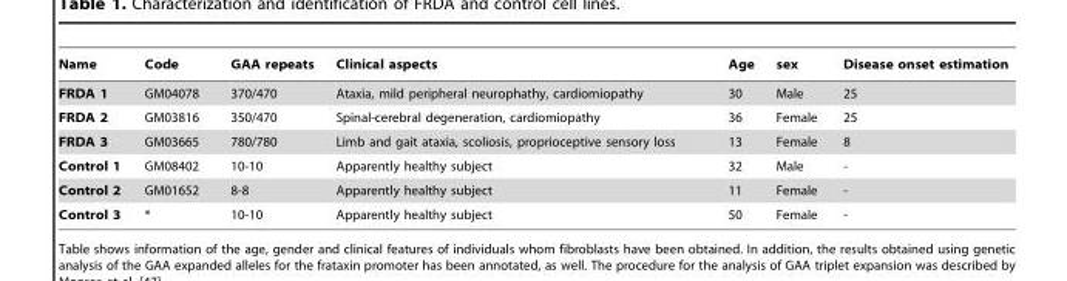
<table><thead><tr><td>Name</td><td>Code</td><td>GAA repeats</td><td>Clinical aspects</td><td>Age</td><td>sex</td><td>Disease onset estimation</td></tr></thead><tbody><tr><td>FRDA 1</td><td>GM04078</td><td>370/470</td><td>Ataxia, mild peripheral neurophathy, cardiomiopathy</td><td>30</td><td>Male</td><td>25</td></tr><tr><td>FRDA 2</td><td>GM03816</td><td>350/470</td><td>Spinal-cerebral degeneration, cardiomiopathy</td><td>36</td><td>Female</td><td>25</td></tr><tr><td>FRDA 3</td><td>GM03665</td><td>780/780</td><td>Limb and gait ataxia, scoliosis, proprioceptive sensory loss</td><td>13</td><td>Female</td><td>8</td></tr><tr><td>Control 1</td><td>GM08402</td><td>10-10</td><td>Apparently healthy subject</td><td>32</td><td>Male</td><td>-</td></tr><tr><td>Control 2</td><td>GM01652</td><td>8-8</td><td>Apparently healthy subject</td><td>11</td><td>Female</td><td>-</td></tr><tr><td>Control 3</td><td>*</td><td>10-10</td><td>Apparently healthy subject</td><td>50</td><td>Female</td><td>-</td></tr></tbody></table>